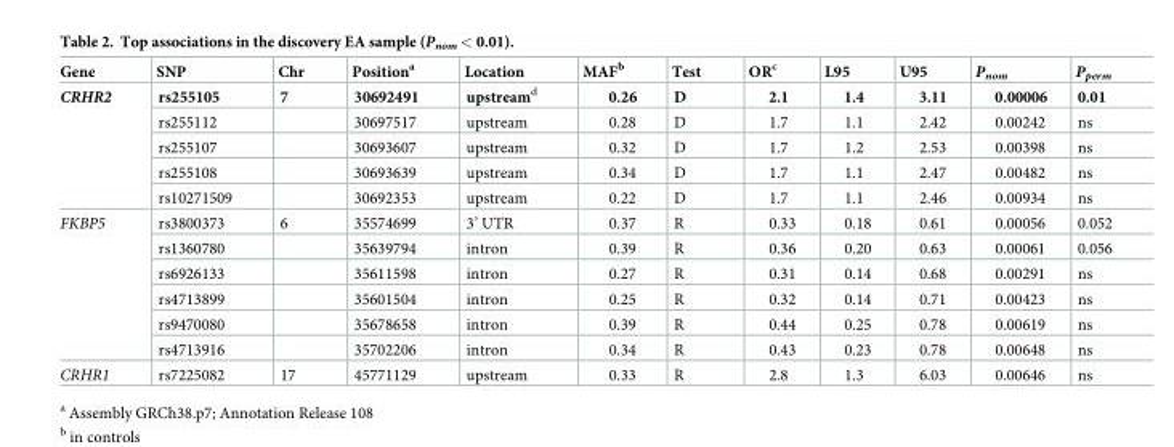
<table><thead><tr><td>Gene</td><td>SNP</td><td>Chr</td><td>Position<sup>a</sup></td><td>Location</td><td>MAF<sup>b</sup></td><td>Test</td><td>OR<sup>c</sup></td><td>L95</td><td>U95</td><td>P<sub>nom</sub></td><td>P<sub>perm</sub></td></tr></thead><tbody><tr><td rowspan="5">CRHR2</td><td>rs255105</td><td>7</td><td>30692491</td><td>upstream<sup>d</sup></td><td>0.26</td><td>D</td><td>2.1</td><td>1.4</td><td>3.11</td><td>0.00006</td><td>0.01</td></tr><tr><td>rs255112</td><td></td><td>30697517</td><td>upstream</td><td>0.28</td><td>D</td><td>1.7</td><td>1.1</td><td>2.42</td><td>0.00242</td><td>ns</td></tr><tr><td>rs255107</td><td></td><td>30693607</td><td>upstream</td><td>0.32</td><td>D</td><td>1.7</td><td>1.2</td><td>2.53</td><td>0.00398</td><td>ns</td></tr><tr><td>rs255108</td><td></td><td>30693639</td><td>upstream</td><td>0.34</td><td>D</td><td>1.7</td><td>1.1</td><td>2.47</td><td>0.00482</td><td>ns</td></tr><tr><td>rs10271509</td><td></td><td>30692353</td><td>upstream</td><td>0.22</td><td>D</td><td>1.7</td><td>1.1</td><td>2.46</td><td>0.00934</td><td>ns</td></tr><tr><td rowspan="6">FKBP5</td><td>rs3800373</td><td>6</td><td>35574699</td><td>3’ UTR</td><td>0.37</td><td>R</td><td>0.33</td><td>0.18</td><td>0.61</td><td>0.00056</td><td>0.052</td></tr><tr><td>rs1360780</td><td></td><td>35639794</td><td>intron</td><td>0.39</td><td>R</td><td>0.36</td><td>0.20</td><td>0.63</td><td>0.00061</td><td>0.056</td></tr><tr><td>rs6926133</td><td></td><td>35611598</td><td>intron</td><td>0.27</td><td>R</td><td>0.31</td><td>0.14</td><td>0.68</td><td>0.00291</td><td>ns</td></tr><tr><td>rs4713899</td><td></td><td>35601504</td><td>intron</td><td>0.25</td><td>R</td><td>0.32</td><td>0.14</td><td>0.71</td><td>0.00423</td><td>ns</td></tr><tr><td>rs9470080</td><td></td><td>35678658</td><td>intron</td><td>0.39</td><td>R</td><td>0.44</td><td>0.25</td><td>0.78</td><td>0.00619</td><td>ns</td></tr><tr><td>rs4713916</td><td></td><td>35702206</td><td>intron</td><td>0.34</td><td>R</td><td>0.43</td><td>0.23</td><td>0.78</td><td>0.00648</td><td>ns</td></tr><tr><td>CRHR1</td><td>rs7225082</td><td>17</td><td>45771129</td><td>upstream</td><td>0.33</td><td>R</td><td>2.8</td><td>1.3</td><td>6.03</td><td>0.00646</td><td>ns</td></tr></tbody></table>